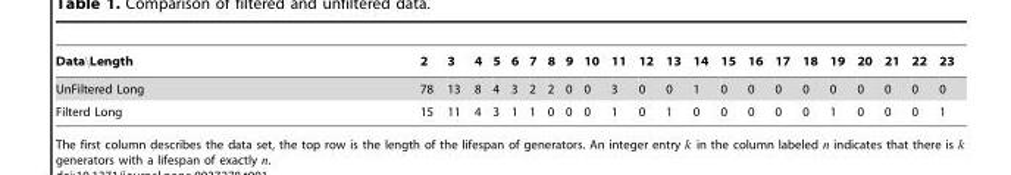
<table><thead><tr><td>Data\Length</td><td>2</td><td>3</td><td>4</td><td>5</td><td>6</td><td>7</td><td>8</td><td>9</td><td>10</td><td>11</td><td>12</td><td>13</td><td>14</td><td>15</td><td>16</td><td>17</td><td>18</td><td>19</td><td>20</td><td>21</td><td>22</td><td>23</td></tr></thead><tbody><tr><td>UnFiltered Long</td><td>78</td><td>13</td><td>8</td><td>4</td><td>3</td><td>2</td><td>2</td><td>0</td><td>0</td><td>3</td><td>0</td><td>0</td><td>1</td><td>0</td><td>0</td><td>0</td><td>0</td><td>0</td><td>0</td><td>0</td><td>0</td><td>0</td></tr><tr><td>Filterd Long</td><td>15</td><td>11</td><td>4</td><td>3</td><td>1</td><td>1</td><td>0</td><td>0</td><td>0</td><td>1</td><td>0</td><td>1</td><td>0</td><td>0</td><td>0</td><td>0</td><td>0</td><td>1</td><td>0</td><td>0</td><td>0</td><td>1</td></tr></tbody></table>